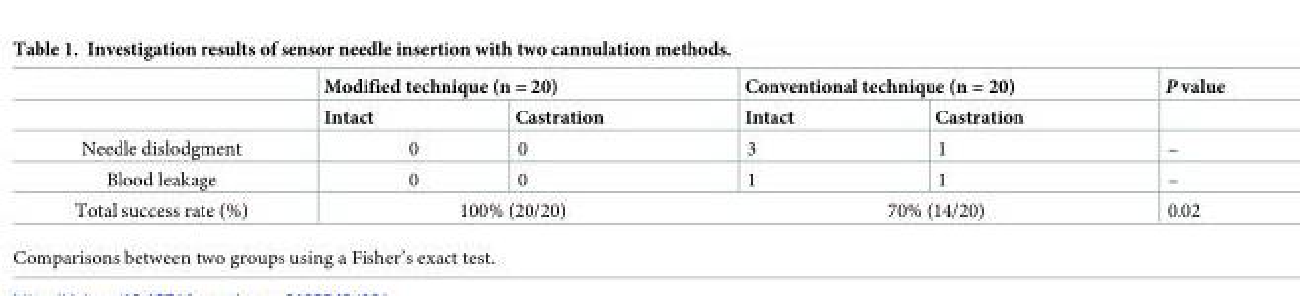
<table><thead><tr><td rowspan="2"></td><td colspan="2">Modified technique (n = 20)</td><td colspan="2">Conventional technique (n = 20)</td><td rowspan="2">P value</td></tr><tr><td>Intact</td><td>Castration</td><td>Intact</td><td>Castration</td></tr></thead><tbody><tr><td>Needle dislodgment</td><td>0</td><td>0</td><td>3</td><td>1</td><td>–</td></tr><tr><td>Blood leakage</td><td>0</td><td>0</td><td>1</td><td>1</td><td>–</td></tr><tr><td>Total success rate (%)</td><td colspan="4">100% (20/20) 70% (14/20)</td><td>0.02</td></tr></tbody></table>